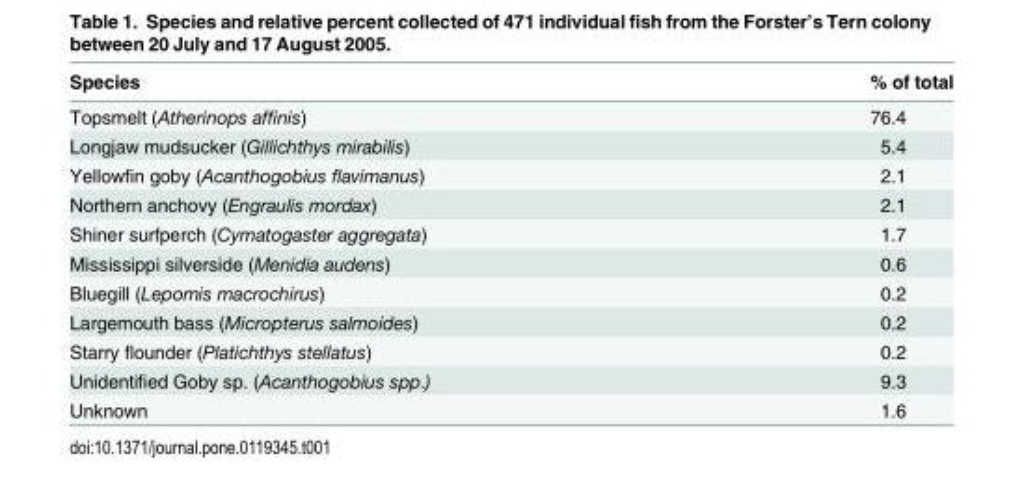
<table><thead><tr><td>Species</td><td>% of total</td></tr></thead><tbody><tr><td>Topsmelt (Atherinops affinis)</td><td>76.4</td></tr><tr><td>Longjaw mudsucker (Gillichthys mirabilis)</td><td>5.4</td></tr><tr><td>Yellowfin goby (Acanthogobius flavimanus)</td><td>2.1</td></tr><tr><td>Northern anchovy (Engraulis mordax)</td><td>2.1</td></tr><tr><td>Shiner surfperch (Cymatogaster aggregata)</td><td>1.7</td></tr><tr><td>Mississippi silverside (Menidia audens)</td><td>0.6</td></tr><tr><td>Bluegill (Lepomis macrochirus)</td><td>0.2</td></tr><tr><td>Largemouth bass (Micropterus salmoides)</td><td>0.2</td></tr><tr><td>Starry flounder (Platichthys stellatus)</td><td>0.2</td></tr><tr><td>Unidentified Goby sp. (Acanthogobius spp.)</td><td>9.3</td></tr><tr><td>Unknown</td><td>1.6</td></tr></tbody></table>